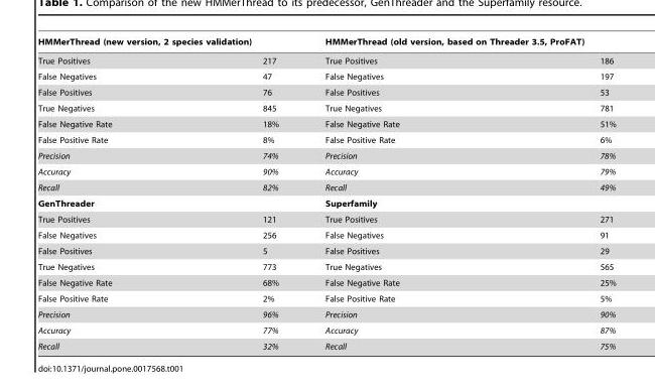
<table><thead><tr><td>HMMerThread (new version, 2 species validation)</td><td></td><td>HMMerThread (old version, based on Threader 3.5, ProFAT)</td><td></td></tr></thead><tbody><tr><td>True Positives</td><td>217</td><td>True Positives</td><td>186</td></tr><tr><td>False Negatives</td><td>47</td><td>False Negatives</td><td>197</td></tr><tr><td>False Positives</td><td>76</td><td>False Positives</td><td>53</td></tr><tr><td>True Negatives</td><td>845</td><td>True Negatives</td><td>781</td></tr><tr><td>False Negative Rate</td><td>18%</td><td>False Negative Rate</td><td>51%</td></tr><tr><td>False Positive Rate</td><td>8%</td><td>False Positive Rate</td><td>6%</td></tr><tr><td>Precision</td><td>74%</td><td>Precision</td><td>78%</td></tr><tr><td>Accuracy</td><td>90%</td><td>Accuracy</td><td>79%</td></tr><tr><td>Recall</td><td>82%</td><td>Recall</td><td>49%</td></tr><tr><td>GenThreader</td><td></td><td>Superfamily</td><td></td></tr><tr><td>True Positives</td><td>121</td><td>True Positives</td><td>271</td></tr><tr><td>False Negatives</td><td>256</td><td>False Negatives</td><td>91</td></tr><tr><td>False Positives</td><td>5</td><td>False Positives</td><td>29</td></tr><tr><td>True Negatives</td><td>773</td><td>True Negatives</td><td>565</td></tr><tr><td>False Negative Rate</td><td>68%</td><td>False Negative Rate</td><td>25%</td></tr><tr><td>False Positive Rate</td><td>2%</td><td>False Positive Rate</td><td>5%</td></tr><tr><td>Precision</td><td>96%</td><td>Precision</td><td>90%</td></tr><tr><td>Accuracy</td><td>77%</td><td>Accuracy</td><td>87%</td></tr><tr><td>Recall</td><td>32%</td><td>Recall</td><td>75%</td></tr></tbody></table>